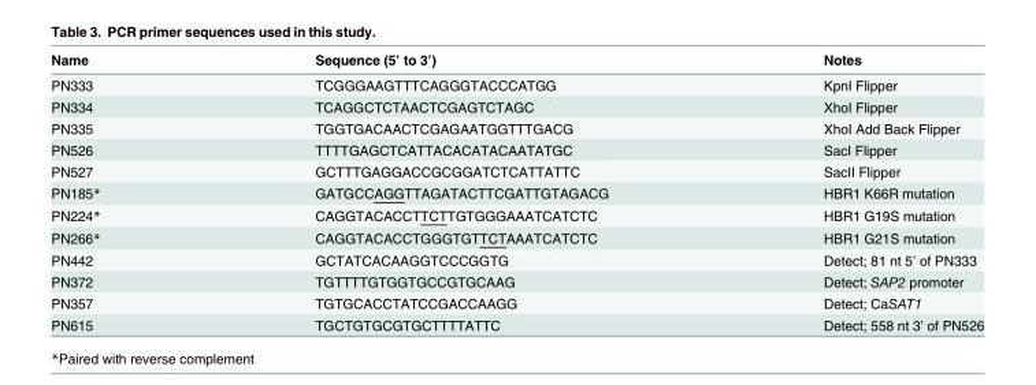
<table><thead><tr><td>Name</td><td>Sequence (5’ to 3’)</td><td>Notes</td></tr></thead><tbody><tr><td>PN333</td><td>TCGGGAAGTTTCAGGGTACCCATGG</td><td>KpnI Flipper</td></tr><tr><td>PN334</td><td>TCAGGCTCTAACTCGAGTCTAGC</td><td>XhoI Flipper</td></tr><tr><td>PN335</td><td>TGGTGACAACTCGAGAATGGTTTGACG</td><td>XhoI Add Back Flipper</td></tr><tr><td>PN526</td><td>TTTTGAGCTCATTACACATACAATATGC</td><td>SacI Flipper</td></tr><tr><td>PN527</td><td>GCTTTGAGGACCGCGGATCTCATTATTC</td><td>SacII Flipper</td></tr><tr><td>PN185*</td><td>GATGCCAGGTTAGATACTTCGATTGTAGACG</td><td>HBR1 K66R mutation</td></tr><tr><td>PN224*</td><td>CAGGTACACCTTCTTGTGGGAAATCATCTC</td><td>HBR1 G19S mutation</td></tr><tr><td>PN266*</td><td>CAGGTACACCTGGGTGTTCTAAATCATCTC</td><td>HBR1 G21S mutation</td></tr><tr><td>PN442</td><td>GCTATCACAAGGTCCCGGTG</td><td>Detect; 81 nt 5’ of PN333</td></tr><tr><td>PN372</td><td>TGTTTTGTGGTGCCGTGCAAG</td><td>Detect; SAP2 promoter</td></tr><tr><td>PN357</td><td>TGTGCACCTATCCGACCAAGG</td><td>Detect; CaSAT1</td></tr><tr><td>PN615</td><td>TGCTGTGCGTGCTTTTATTC</td><td>Detect; 558 nt 3’ of PN526</td></tr></tbody></table>